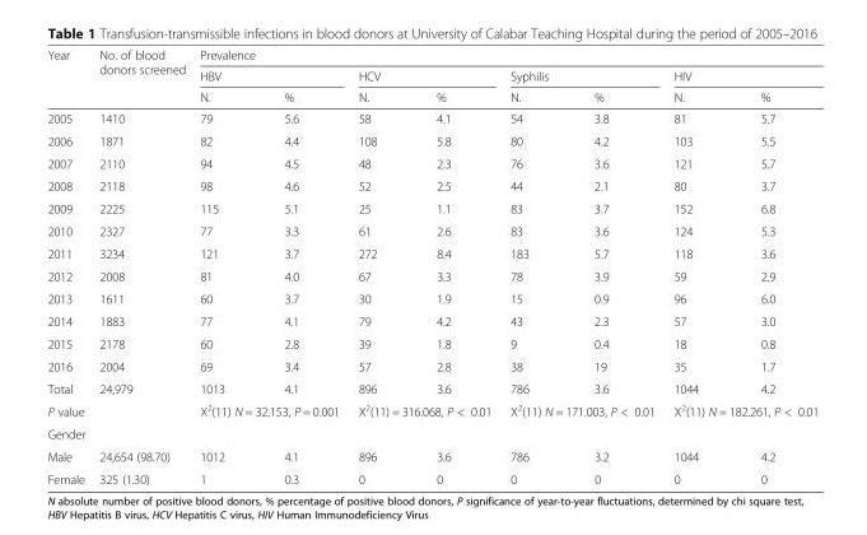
<table><thead><tr><td rowspan="3">Year</td><td rowspan="3">No. of blood donors screened</td><td colspan="8">Prevalence</td></tr><tr><td colspan="2">HBV</td><td colspan="2">HCV</td><td colspan="2">Syphilis</td><td colspan="2">HIV</td></tr><tr><td>N.</td><td>%</td><td>N.</td><td>%</td><td>N.</td><td>%</td><td>N.</td><td>%</td></tr></thead><tbody><tr><td>2005</td><td>1410</td><td>79</td><td>5.6</td><td>58</td><td>4.1</td><td>54</td><td>3.8</td><td>81</td><td>5.7</td></tr><tr><td>2006</td><td>1871</td><td>82</td><td>4.4</td><td>108</td><td>5.8</td><td>80</td><td>4.2</td><td>103</td><td>5.5</td></tr><tr><td>2007</td><td>2110</td><td>94</td><td>4.5</td><td>48</td><td>2.3</td><td>76</td><td>3.6</td><td>121</td><td>5.7</td></tr><tr><td>2008</td><td>2118</td><td>98</td><td>4.6</td><td>52</td><td>2.5</td><td>44</td><td>2.1</td><td>80</td><td>3.7</td></tr><tr><td>2009</td><td>2225</td><td>115</td><td>5.1</td><td>25</td><td>1.1</td><td>83</td><td>3.7</td><td>152</td><td>6.8</td></tr><tr><td>2010</td><td>2327</td><td>77</td><td>3.3</td><td>61</td><td>2.6</td><td>83</td><td>3.6</td><td>124</td><td>5.3</td></tr><tr><td>2011</td><td>3234</td><td>121</td><td>3.7</td><td>272</td><td>8.4</td><td>183</td><td>5.7</td><td>118</td><td>3.6</td></tr><tr><td>2012</td><td>2008</td><td>81</td><td>4.0</td><td>67</td><td>3.3</td><td>78</td><td>3.9</td><td>59</td><td>2.9</td></tr><tr><td>2013</td><td>1611</td><td>60</td><td>3.7</td><td>30</td><td>1.9</td><td>15</td><td>0.9</td><td>96</td><td>6.0</td></tr><tr><td>2014</td><td>1883</td><td>77</td><td>4.1</td><td>79</td><td>4.2</td><td>43</td><td>2.3</td><td>57</td><td>3.0</td></tr><tr><td>2015</td><td>2178</td><td>60</td><td>2.8</td><td>39</td><td>1.8</td><td>9</td><td>0.4</td><td>18</td><td>0.8</td></tr><tr><td>2016</td><td>2004</td><td>69</td><td>3.4</td><td>57</td><td>2.8</td><td>38</td><td>19</td><td>35</td><td>1.7</td></tr><tr><td>Total</td><td>24,979</td><td>1013</td><td>4.1</td><td>896</td><td>3.6</td><td>786</td><td>3.6</td><td>1044</td><td>4.2</td></tr><tr><td>P value</td><td></td><td colspan="2">X<sup>2</sup>(11) N = 32.153, P = 0.001</td><td colspan="2">X<sup>2</sup>(11) = 316.068, P &lt; 0.01</td><td colspan="2">X<sup>2</sup>(11) N = 171.003, P &lt; 0.01</td><td colspan="2">X<sup>2</sup>(11) N = 182.261, P &lt; 0.01</td></tr><tr><td colspan="10">Gender</td></tr><tr><td>Male</td><td>24,654 (98.70)</td><td>1012</td><td>4.1</td><td>896</td><td>3.6</td><td>786</td><td>3.2</td><td>1044</td><td>4.2</td></tr><tr><td>Female</td><td>325 (1.30)</td><td>1</td><td>0.3</td><td>0</td><td>0</td><td>0</td><td>0</td><td>0</td><td>0</td></tr></tbody></table>